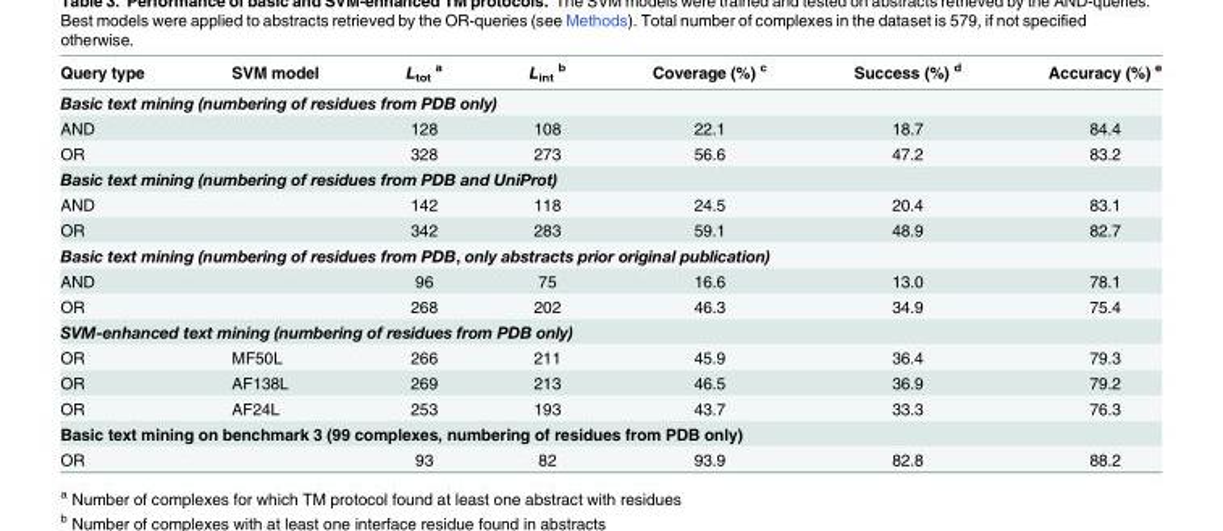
<table><thead><tr><td>Query type</td><td>SVM model</td><td>L<sub>tot</sub> <sup>a</sup></td><td>L<sub>int</sub> <sup>b</sup></td><td>Coverage (%) <sup>c</sup></td><td>Success (%) <sup>d</sup></td><td>Accuracy (%) <sup>e</sup></td></tr></thead><tbody><tr><td colspan="7">Basic text mining (numbering of residues from PDB only)</td></tr><tr><td>AND</td><td></td><td>128</td><td>108</td><td>22.1</td><td>18.7</td><td>84.4</td></tr><tr><td>OR</td><td></td><td>328</td><td>273</td><td>56.6</td><td>47.2</td><td>83.2</td></tr><tr><td colspan="7">Basic text mining (numbering of residues from PDB and UniProt)</td></tr><tr><td>AND</td><td></td><td>142</td><td>118</td><td>24.5</td><td>20.4</td><td>83.1</td></tr><tr><td>OR</td><td></td><td>342</td><td>283</td><td>59.1</td><td>48.9</td><td>82.7</td></tr><tr><td colspan="7">Basic text mining (numbering of residues from PDB, only abstracts prior original publication)</td></tr><tr><td>AND</td><td></td><td>96</td><td>75</td><td>16.6</td><td>13.0</td><td>78.1</td></tr><tr><td>OR</td><td></td><td>268</td><td>202</td><td>46.3</td><td>34.9</td><td>75.4</td></tr><tr><td colspan="7">SVM-enhanced text mining (numbering of residues from PDB only)</td></tr><tr><td>OR</td><td>MF50L</td><td>266</td><td>211</td><td>45.9</td><td>36.4</td><td>79.3</td></tr><tr><td>OR</td><td>AF138L</td><td>269</td><td>213</td><td>46.5</td><td>36.9</td><td>79.2</td></tr><tr><td>OR</td><td>AF24L</td><td>253</td><td>193</td><td>43.7</td><td>33.3</td><td>76.3</td></tr><tr><td colspan="7">Basic text mining on benchmark 3 (99 complexes, numbering of residues from PDB only)</td></tr><tr><td>OR</td><td></td><td>93</td><td>82</td><td>93.9</td><td>82.8</td><td>88.2</td></tr></tbody></table>